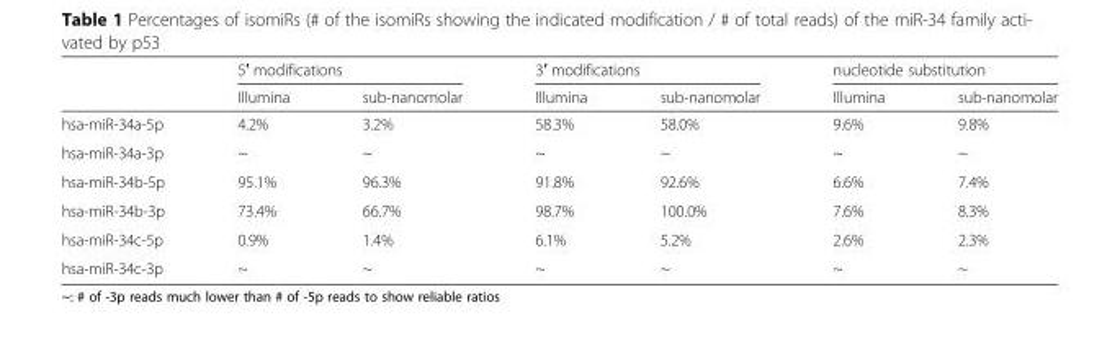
<table><thead><tr><td rowspan="2"></td><td colspan="2">5′ modifications</td><td colspan="2">3′ modifications</td><td colspan="2">nucleotide substitution</td></tr><tr><td>Illumina</td><td>sub-nanomolar</td><td>Illumina</td><td>sub-nanomolar</td><td>Illumina</td><td>sub-nanomolar</td></tr></thead><tbody><tr><td>hsa-miR-34a-5p</td><td>4.2%</td><td>3.2%</td><td>58.3%</td><td>58.0%</td><td>9.6%</td><td>9.8%</td></tr><tr><td>hsa-miR-34a-3p</td><td>~</td><td>~</td><td>~</td><td>~</td><td>~</td><td>~</td></tr><tr><td>hsa-miR-34b-5p</td><td>95.1%</td><td>96.3%</td><td>91.8%</td><td>92.6%</td><td>6.6%</td><td>7.4%</td></tr><tr><td>hsa-miR-34b-3p</td><td>73.4%</td><td>66.7%</td><td>98.7%</td><td>100.0%</td><td>7.6%</td><td>8.3%</td></tr><tr><td>hsa-miR-34c-5p</td><td>0.9%</td><td>1.4%</td><td>6.1%</td><td>5.2%</td><td>2.6%</td><td>2.3%</td></tr><tr><td>hsa-miR-34c-3p</td><td>~</td><td>~</td><td>~</td><td>~</td><td>~</td><td>~</td></tr></tbody></table>